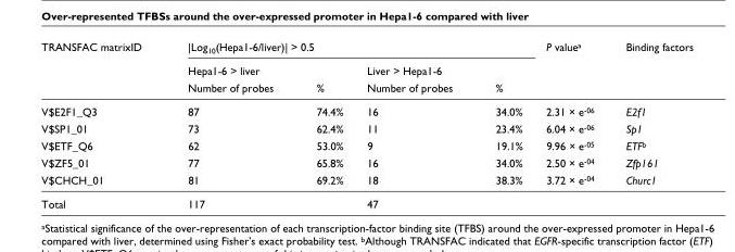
<table><thead><tr><td rowspan="3">TRANSFAC matrixID</td><td colspan="4">|Log<sub>10</sub>(Hepa1-6/liver)| &gt; 0.5</td><td rowspan="3">P value<sup>a</sup></td><td rowspan="3">Binding factors</td></tr><tr><td colspan="2">Hepa1-6 &gt; liver</td><td colspan="2">Liver &gt; Hepa1-6</td></tr><tr><td>Number of probes</td><td>%</td><td>Number of probes</td><td>%</td></tr></thead><tbody><tr><td>V$E2F1_Q3</td><td>87</td><td>74.4%</td><td>16</td><td>34.0%</td><td>2.31 × e<sup>-06</sup></td><td>E2f1</td></tr><tr><td>V$SP1_01</td><td>73</td><td>62.4%</td><td>11</td><td>23.4%</td><td>6.04 × e<sup>-06</sup></td><td>Sp1</td></tr><tr><td>V$ETF_Q6</td><td>62</td><td>53.0%</td><td>9</td><td>19.1%</td><td>9.96 × e<sup>-05</sup></td><td>ETF<sup>b</sup></td></tr><tr><td>V$ZF5_01</td><td>77</td><td>65.8%</td><td>16</td><td>34.0%</td><td>2.50 × e<sup>-04</sup></td><td>Zfp161</td></tr><tr><td>V$CHCH_01</td><td>81</td><td>69.2%</td><td>18</td><td>38.3%</td><td>3.72 × e<sup>-04</sup></td><td>Churc1</td></tr><tr><td>Total</td><td>117</td><td></td><td>47</td><td></td><td></td><td></td></tr></tbody></table>